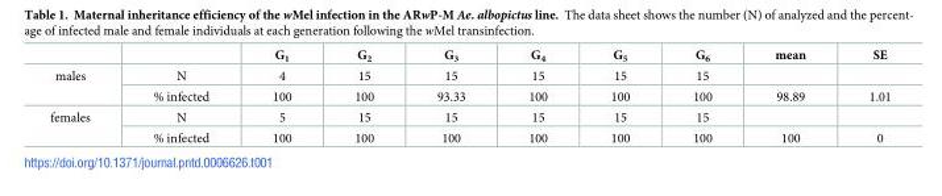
<table><thead><tr><td></td><td></td><td>G<sub>1</sub></td><td>G<sub>2</sub></td><td>G<sub>3</sub></td><td>G<sub>4</sub></td><td>G<sub>5</sub></td><td>G<sub>6</sub></td><td>mean</td><td>SE</td></tr></thead><tbody><tr><td rowspan="2">males</td><td>N</td><td>4</td><td>15</td><td>15</td><td>15</td><td>15</td><td>15</td><td></td><td></td></tr><tr><td>% infected</td><td>100</td><td>100</td><td>93.33</td><td>100</td><td>100</td><td>100</td><td>98.89</td><td>1.01</td></tr><tr><td rowspan="2">females</td><td>N</td><td>5</td><td>15</td><td>15</td><td>15</td><td>15</td><td>15</td><td></td><td></td></tr><tr><td>% infected</td><td>100</td><td>100</td><td>100</td><td>100</td><td>100</td><td>100</td><td>100</td><td>0</td></tr></tbody></table>